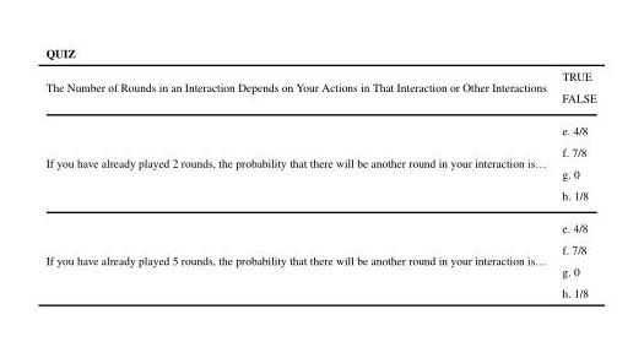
<table><thead><tr><td>QUIZ</td><td></td></tr></thead><tbody><tr><td rowspan="2">The Number of Rounds in an Interaction Depends on Your Actions in That Interaction or Other Interactions</td><td>TRUE</td></tr><tr><td>FALSE</td></tr><tr><td rowspan="4">If you have already played 2 rounds, the probability that there will be another round in your interaction is…</td><td>e. 4/8</td></tr><tr><td>f. 7/8</td></tr><tr><td>g. 0</td></tr><tr><td>h. 1/8</td></tr><tr><td rowspan="4">If you have already played 5 rounds, the probability that there will be another round in your interaction is…</td><td>e. 4/8</td></tr><tr><td>f. 7/8</td></tr><tr><td>g. 0</td></tr><tr><td>h. 1/8</td></tr></tbody></table>